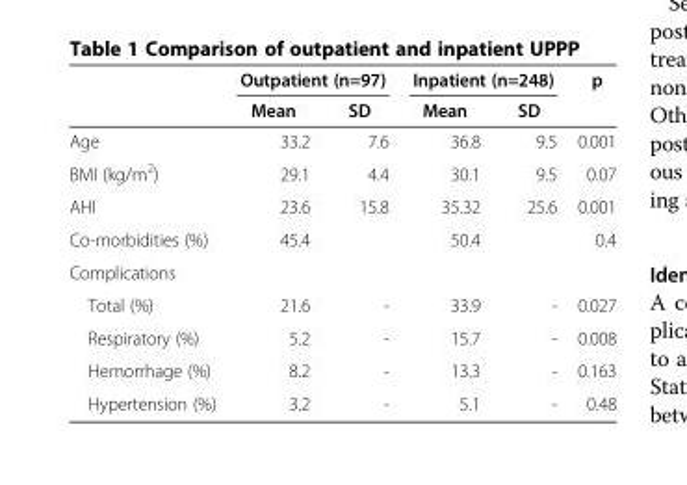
<table><thead><tr><td rowspan="2"></td><td colspan="2">Outpatient (n=97)</td><td colspan="2">Inpatient (n=248)</td><td rowspan="2">p</td></tr><tr><td>Mean</td><td>SD</td><td>Mean</td><td>SD</td></tr></thead><tbody><tr><td>Age</td><td>33.2</td><td>7.6</td><td>36.8</td><td>9.5</td><td>0.001</td></tr><tr><td>BMI (kg/m<sup>2</sup>)</td><td>29.1</td><td>4.4</td><td>30.1</td><td>9.5</td><td>0.07</td></tr><tr><td>AHI</td><td>23.6</td><td>15.8</td><td>35.32</td><td>25.6</td><td>0.001</td></tr><tr><td>Co-morbidities (%)</td><td>45.4</td><td></td><td>50.4</td><td></td><td>0.4</td></tr><tr><td colspan="6">Complications</td></tr><tr><td>Total (%)</td><td>21.6</td><td>-</td><td>33.9</td><td>-</td><td>0.027</td></tr><tr><td>Respiratory (%)</td><td>5.2</td><td>-</td><td>15.7</td><td>-</td><td>0.008</td></tr><tr><td>Hemorrhage (%)</td><td>8.2</td><td>-</td><td>13.3</td><td>-</td><td>0.163</td></tr><tr><td>Hypertension (%)</td><td>3.2</td><td>-</td><td>5.1</td><td>-</td><td>0.48</td></tr></tbody></table>